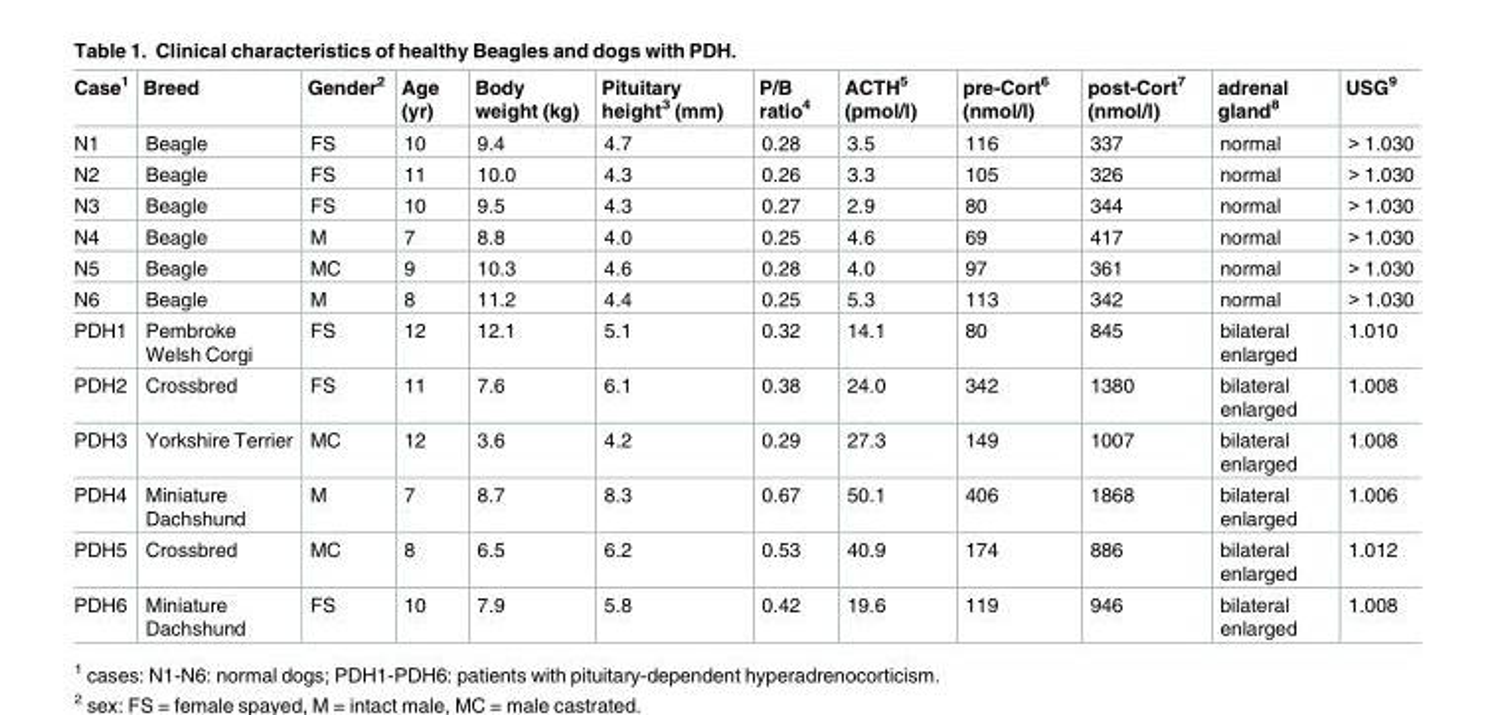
<table><thead><tr><td>Case<sup>1</sup></td><td>Breed</td><td>Gender<sup>2</sup></td><td>Age (yr)</td><td>Body weight (kg)</td><td>Pituitary height<sup>3</sup> (mm)</td><td>P/B ratio<sup>4</sup></td><td>ACTH<sup>5</sup> (pmol/l)</td><td>pre-Cort<sup>6</sup> (nmol/l)</td><td>post-Cort<sup>7</sup> (nmol/l)</td><td>adrenal gland<sup>8</sup></td><td>USG<sup>9</sup></td></tr></thead><tbody><tr><td>N1</td><td>Beagle</td><td>FS</td><td>10</td><td>9.4</td><td>4.7</td><td>0.28</td><td>3.5</td><td>116</td><td>337</td><td>normal</td><td>&gt; 1.030</td></tr><tr><td>N2</td><td>Beagle</td><td>FS</td><td>11</td><td>10.0</td><td>4.3</td><td>0.26</td><td>3.3</td><td>105</td><td>326</td><td>normal</td><td>&gt; 1.030</td></tr><tr><td>N3</td><td>Beagle</td><td>FS</td><td>10</td><td>9.5</td><td>4.3</td><td>0.27</td><td>2.9</td><td>80</td><td>344</td><td>normal</td><td>&gt; 1.030</td></tr><tr><td>N4</td><td>Beagle</td><td>M</td><td>7</td><td>8.8</td><td>4.0</td><td>0.25</td><td>4.6</td><td>69</td><td>417</td><td>normal</td><td>&gt; 1.030</td></tr><tr><td>N5</td><td>Beagle</td><td>MC</td><td>9</td><td>10.3</td><td>4.6</td><td>0.28</td><td>4.0</td><td>97</td><td>361</td><td>normal</td><td>&gt; 1.030</td></tr><tr><td>N6</td><td>Beagle</td><td>M</td><td>8</td><td>11.2</td><td>4.4</td><td>0.25</td><td>5.3</td><td>113</td><td>342</td><td>normal</td><td>&gt; 1.030</td></tr><tr><td>PDH1</td><td>Pembroke Welsh Corgi</td><td>FS</td><td>12</td><td>12.1</td><td>5.1</td><td>0.32</td><td>14.1</td><td>80</td><td>845</td><td>bilateral enlarged</td><td>1.010</td></tr><tr><td>PDH2</td><td>Crossbred</td><td>FS</td><td>11</td><td>7.6</td><td>6.1</td><td>0.38</td><td>24.0</td><td>342</td><td>1380</td><td>bilateral enlarged</td><td>1.008</td></tr><tr><td>PDH3</td><td>Yorkshire Terrier</td><td>MC</td><td>12</td><td>3.6</td><td>4.2</td><td>0.29</td><td>27.3</td><td>149</td><td>1007</td><td>bilateral enlarged</td><td>1.008</td></tr><tr><td>PDH4</td><td>Miniature Dachshund</td><td>M</td><td>7</td><td>8.7</td><td>8.3</td><td>0.67</td><td>50.1</td><td>406</td><td>1868</td><td>bilateral enlarged</td><td>1.006</td></tr><tr><td>PDH5</td><td>Crossbred</td><td>MC</td><td>8</td><td>6.5</td><td>6.2</td><td>0.53</td><td>40.9</td><td>174</td><td>886</td><td>bilateral enlarged</td><td>1.012</td></tr><tr><td>PDH6</td><td>Miniature Dachshund</td><td>FS</td><td>10</td><td>7.9</td><td>5.8</td><td>0.42</td><td>19.6</td><td>119</td><td>946</td><td>bilateral enlarged</td><td>1.008</td></tr></tbody></table>